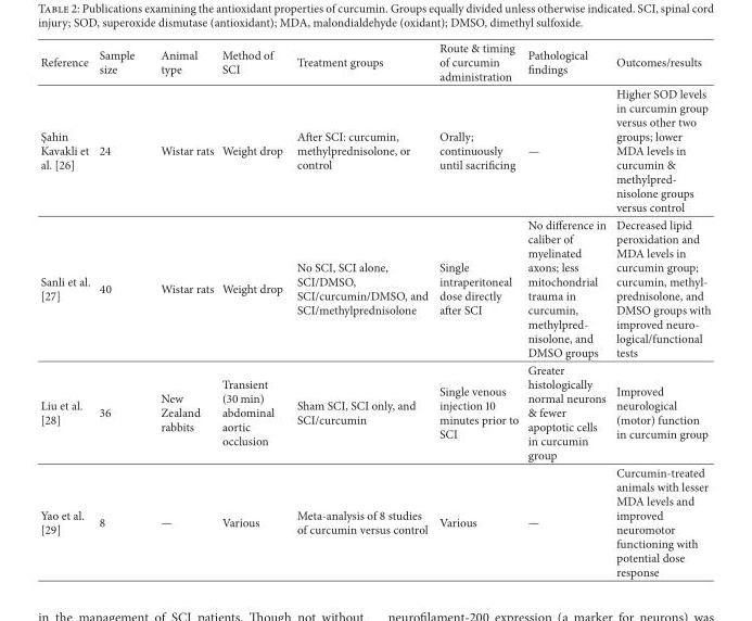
<table><thead><tr><td>Reference</td><td>Sample size</td><td>Animal type</td><td>Method of SCI</td><td>Treatment groups</td><td>Route &amp; timing of curcumin administration</td><td>Pathological findings</td><td>Outcomes/results</td></tr></thead><tbody><tr><td>S¸ahin Kavakli et al. [26]</td><td>24</td><td>Wistar rats</td><td>Weight drop</td><td>After SCI: curcumin, methylprednisolone, or control</td><td>Orally; continuously until sacrificing</td><td>—</td><td>Higher SOD levels in curcumin group versus other two groups; lower MDA levels in curcumin &amp; methylpred- nisolone groups versus control</td></tr><tr><td>Sanli et al. [27]</td><td>40</td><td>Wistar rats</td><td>Weight drop</td><td>No SCI, SCI alone, SCI/DMSO, SCI/curcumin/DMSO, and SCI/methylprednisolone</td><td>Single intraperitoneal dose directly after SCI</td><td>No difference in caliber of myelinated axons; less mitochondrial trauma in curcumin, methylpred- nisolone, and DMSO groups</td><td>Decreased lipid peroxidation and MDA levels in curcumin group; curcumin, methyl- prednisolone, and DMSO groups with improved neuro- logical/functional tests</td></tr><tr><td>Liu et al. [28]</td><td>36</td><td>New Zealand rabbits</td><td>Transient (30 min) abdominal aortic occlusion</td><td>Sham SCI, SCI only, and SCI/curcumin</td><td>Single venous injection 10 minutes prior to SCI</td><td>Greater histologically normal neurons &amp; fewer apoptotic cells in curcumin group</td><td>Improved neurological (motor) function in curcumin group</td></tr><tr><td>Yao et al. [29]</td><td>8</td><td>—</td><td>Various</td><td>Meta-analysis of 8 studies of curcumin versus control</td><td>Various</td><td>—</td><td>Curcumin-treated animals with lesser MDA levels and improved neuromotor functioning with potential dose response</td></tr></tbody></table>